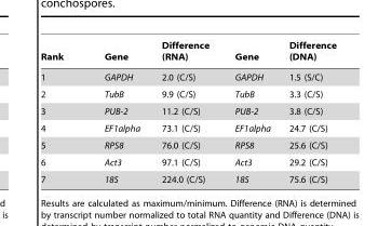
<table><thead><tr><td>Rank</td><td>Gene</td><td>Difference (RNA)</td><td>Gene</td><td>Difference (DNA)</td></tr></thead><tbody><tr><td>1</td><td>GAPDH</td><td>2.0 (C/S)</td><td>GAPDH</td><td>1.5 (S/C)</td></tr><tr><td>2</td><td>TubB</td><td>9.9 (C/S)</td><td>TubB</td><td>3.3 (C/S)</td></tr><tr><td>3</td><td>PUB-2</td><td>11.2 (C/S)</td><td>PUB-2</td><td>3.8 (C/S)</td></tr><tr><td>4</td><td>EF1alpha</td><td>73.1 (C/S)</td><td>EF1alpha</td><td>24.7 (C/S)</td></tr><tr><td>5</td><td>RPS8</td><td>76.0 (C/S)</td><td>RPS8</td><td>25.6 (C/S)</td></tr><tr><td>6</td><td>Act3</td><td>97.1 (C/S)</td><td>Act3</td><td>29.2 (C/S)</td></tr><tr><td>7</td><td>18S</td><td>224.0 (C/S)</td><td>18S</td><td>75.6 (C/S)</td></tr></tbody></table>